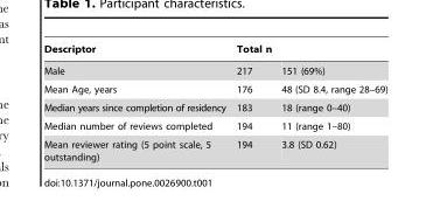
<table><thead><tr><td>Descriptor</td><td>Total n</td><td></td></tr></thead><tbody><tr><td>Male</td><td>217</td><td>151 (69%)</td></tr><tr><td>Mean Age, years</td><td>176</td><td>48 (SD 8.4, range 28–69)</td></tr><tr><td>Median years since completion of residency</td><td>183</td><td>18 (range 0–40)</td></tr><tr><td>Median number of reviews completed</td><td>194</td><td>11 (range 1–80)</td></tr><tr><td>Mean reviewer rating (5 point scale, 5 outstanding)</td><td>194</td><td>3.8 (SD 0.62)</td></tr></tbody></table>